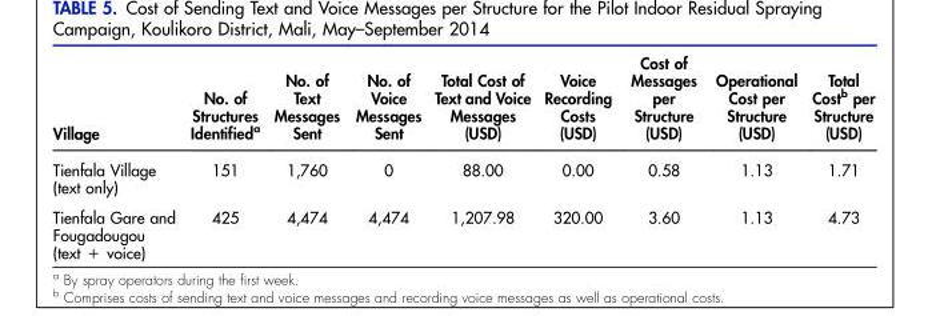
<table><thead><tr><td>Village</td><td>No. of Structures Identified<sup>a</sup></td><td>No. of Text Messages Sent</td><td>No. of Voice Messages Sent</td><td>Total Cost of Text and Voice Messages (USD)</td><td>Voice Recording Costs (USD)</td><td>Cost of Messages per Structure (USD)</td><td>Operational Cost per Structure (USD)</td><td>Total Cost<sup>b</sup> per Structure (USD)</td></tr></thead><tbody><tr><td>Tienfala Village (text only)</td><td>151</td><td>1,760</td><td>0</td><td>88.00</td><td>0.00</td><td>0.58</td><td>1.13</td><td>1.71</td></tr><tr><td>Tienfala Gare and Fougadougou (text + voice)</td><td>425</td><td>4,474</td><td>4,474</td><td>1,207.98</td><td>320.00</td><td>3.60</td><td>1.13</td><td>4.73</td></tr></tbody></table>